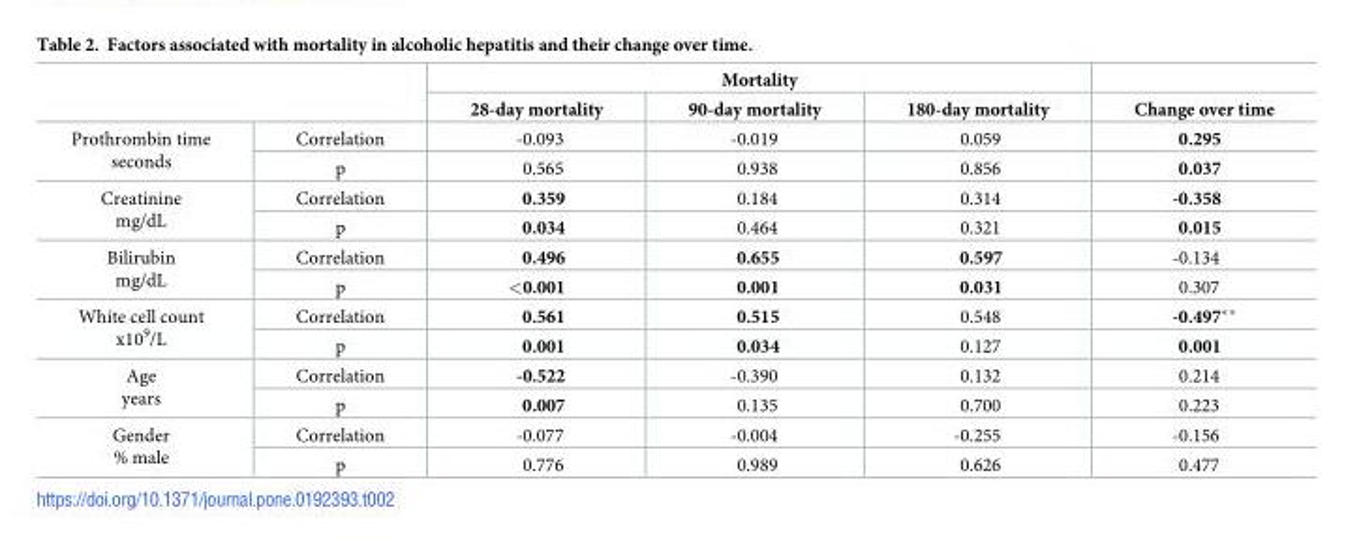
<table><thead><tr><td rowspan="2"></td><td rowspan="2"></td><td colspan="3">Mortality</td><td rowspan="2">Change over time</td></tr><tr><td>28-day mortality</td><td>90-day mortality</td><td>180-day mortality</td></tr></thead><tbody><tr><td rowspan="2">Prothrombin time seconds</td><td>Correlation</td><td>-0.093</td><td>-0.019</td><td>0.059</td><td>0.295</td></tr><tr><td>p</td><td>0.565</td><td>0.938</td><td>0.856</td><td>0.037</td></tr><tr><td rowspan="2">Creatinine mg/dL</td><td>Correlation</td><td>0.359</td><td>0.184</td><td>0.314</td><td>-0.358</td></tr><tr><td>p</td><td>0.034</td><td>0.464</td><td>0.321</td><td>0.015</td></tr><tr><td rowspan="2">Bilirubin mg/dL</td><td>Correlation</td><td>0.496</td><td>0.655</td><td>0.597</td><td>-0.134</td></tr><tr><td>p</td><td>&lt;0.001</td><td>0.001</td><td>0.031</td><td>0.307</td></tr><tr><td rowspan="2">White cell count x10<sup>9</sup>/L</td><td>Correlation</td><td>0.561</td><td>0.515</td><td>0.548</td><td>-0.497**</td></tr><tr><td>p</td><td>0.001</td><td>0.034</td><td>0.127</td><td>0.001</td></tr><tr><td rowspan="2">Age years</td><td>Correlation</td><td>-0.522</td><td>-0.390</td><td>0.132</td><td>0.214</td></tr><tr><td>p</td><td>0.007</td><td>0.135</td><td>0.700</td><td>0.223</td></tr><tr><td rowspan="2">Gender % male</td><td>Correlation</td><td>-0.077</td><td>-0.004</td><td>-0.255</td><td>-0.156</td></tr><tr><td>p</td><td>0.776</td><td>0.989</td><td>0.626</td><td>0.477</td></tr></tbody></table>